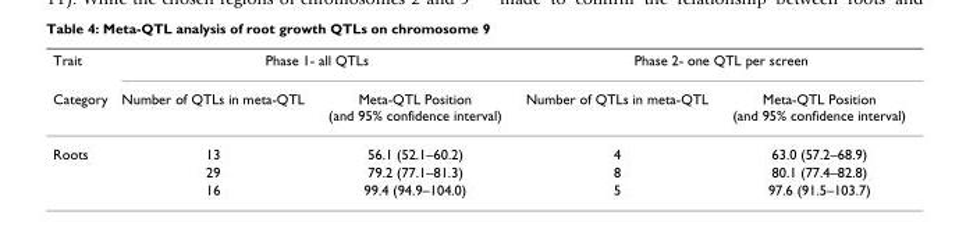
<table><thead><tr><td rowspan="2">Trait Category</td><td colspan="2">Phase 1- all QTLs</td><td colspan="2">Phase 2- one QTL per screen</td></tr><tr><td>Number of QTLs in meta-QTL</td><td>Meta-QTL Position (and 95% confidence interval)</td><td>Number of QTLs in meta-QTL</td><td>Meta-QTL Position (and 95% confidence interval)</td></tr></thead><tbody><tr><td rowspan="3">Roots</td><td>13</td><td>56.1 (52.1–60.2)</td><td>4</td><td>63.0 (57.2–68.9)</td></tr><tr><td>29</td><td>79.2 (77.1–81.3)</td><td>8</td><td>80.1 (77.4–82.8)</td></tr><tr><td>16</td><td>99.4 (94.9–104.0)</td><td>5</td><td>97.6 (91.5–103.7)</td></tr></tbody></table>